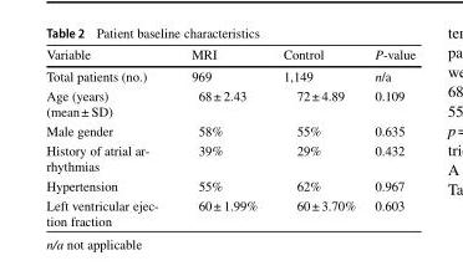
<table><thead><tr><td>Variable</td><td>MRI</td><td>Control</td><td>P-value</td></tr></thead><tbody><tr><td>Total patients (no.)</td><td>969</td><td>1,149</td><td>n/a</td></tr><tr><td>Age (years) (mean± SD)</td><td>68± 2.43</td><td>72± 4.89</td><td>0.109</td></tr><tr><td>Male gender</td><td>58%</td><td>55%</td><td>0.635</td></tr><tr><td>History of atrial ar- rhythmias</td><td>39%</td><td>29%</td><td>0.432</td></tr><tr><td>Hypertension</td><td>55%</td><td>62%</td><td>0.967</td></tr><tr><td>Left ventricular ejec- tion fraction</td><td>60± 1.99%</td><td>60± 3.70%</td><td>0.603</td></tr></tbody></table>